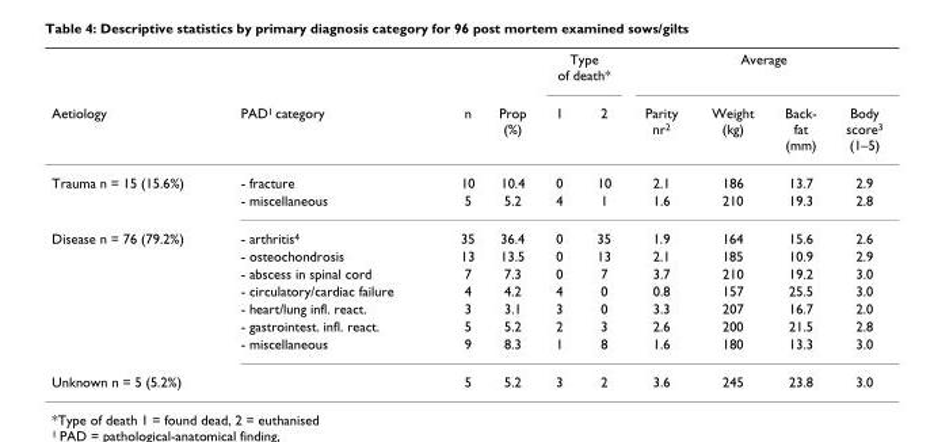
<table><thead><tr><td rowspan="2">Aetiology</td><td rowspan="2">PAD<sup>1</sup> category</td><td rowspan="2">n</td><td rowspan="2">Prop (%)</td><td colspan="2">Type of death*</td><td colspan="4">Average</td></tr><tr><td>1</td><td>2</td><td>Parity nr<sup>2</sup></td><td>Weight (kg)</td><td>Back- fat (mm)</td><td>Body score<sup>3</sup> (1–5)</td></tr></thead><tbody><tr><td rowspan="2">Trauma n = 15 (15.6%)</td><td>- fracture</td><td>10</td><td>10.4</td><td>0</td><td>10</td><td>2.1</td><td>186</td><td>13.7</td><td>2.9</td></tr><tr><td>- miscellaneous</td><td>5</td><td>5.2</td><td>4</td><td>1</td><td>1.6</td><td>210</td><td>19.3</td><td>2.8</td></tr><tr><td rowspan="7">Disease n = 76 (79.2%)</td><td>- arthritis<sup>4</sup></td><td>35</td><td>36.4</td><td>0</td><td>35</td><td>1.9</td><td>164</td><td>15.6</td><td>2.6</td></tr><tr><td>- osteochondrosis</td><td>13</td><td>13.5</td><td>0</td><td>13</td><td>2.1</td><td>185</td><td>10.9</td><td>2.9</td></tr><tr><td>- abscess in spinal cord</td><td>7</td><td>7.3</td><td>0</td><td>7</td><td>3.7</td><td>210</td><td>19.2</td><td>3.0</td></tr><tr><td>- circulatory/cardiac failure</td><td>4</td><td>4.2</td><td>4</td><td>0</td><td>0.8</td><td>157</td><td>25.5</td><td>3.0</td></tr><tr><td>- heart/lung infl. react.</td><td>3</td><td>3.1</td><td>3</td><td>0</td><td>3.3</td><td>207</td><td>16.7</td><td>2.0</td></tr><tr><td>- gastrointest. infl. react.</td><td>5</td><td>5.2</td><td>2</td><td>3</td><td>2.6</td><td>200</td><td>21.5</td><td>2.8</td></tr><tr><td>- miscellaneous</td><td>9</td><td>8.3</td><td>1</td><td>8</td><td>1.6</td><td>180</td><td>13.3</td><td>3.0</td></tr><tr><td>Unknown n = 5 (5.2%)</td><td></td><td>5</td><td>5.2</td><td>3</td><td>2</td><td>3.6</td><td>245</td><td>23.8</td><td>3.0</td></tr></tbody></table>